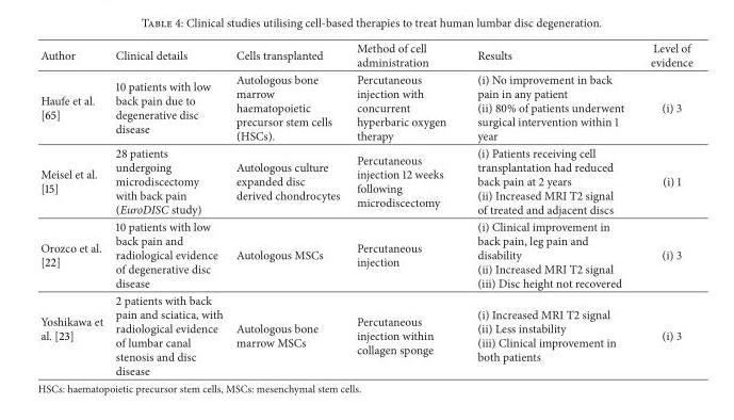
<table><thead><tr><td>Author</td><td>Clinical details</td><td>Cells transplanted</td><td>Method of cell administration</td><td>Results</td><td>Level of evidence</td></tr></thead><tbody><tr><td>Haufe et al. [65]</td><td>10 patients with low back pain due to degenerative disc disease</td><td>Autologous bone marrow haematopoietic precursor stem cells (HSCs).</td><td>Percutaneous injection with concurrent hyperbaric oxygen therapy</td><td>(i) No improvement in back pain in any patient (ii) 80% of patients underwent surgical intervention within 1 year</td><td>(i) 3</td></tr><tr><td>Meisel et al. [15]</td><td>28 patients undergoing microdiscectomy with back pain (EuroDISC study)</td><td>Autologous culture expanded disc derived chondrocytes</td><td>Percutaneous injection 12 weeks following microdiscectomy</td><td>(i) Patients receiving cell transplantation had reduced back pain at 2 years (ii) Increased MRI T2 signal of treated and adjacent discs</td><td>(i) 1</td></tr><tr><td>Orozco et al. [22]</td><td>10 patients with low back pain and radiological evidence of degenerative disc disease</td><td>Autologous MSCs</td><td>Percutaneous injection</td><td>(i) Clinical improvement in back pain, leg pain and disability (ii) Increased MRI T2 signal (iii) Disc height not recovered</td><td>(i) 3</td></tr><tr><td>Yoshikawa et al. [23]</td><td>2 patients with back pain and sciatica, with radiological evidence of lumbar canal stenosis and disc disease</td><td>Autologous bone marrow MSCs</td><td>Percutaneous injection within collagen sponge</td><td>(i) Increased MRI T2 signal (ii) Less instability (iii) Clinical improvement in both patients</td><td>(i) 3</td></tr></tbody></table>